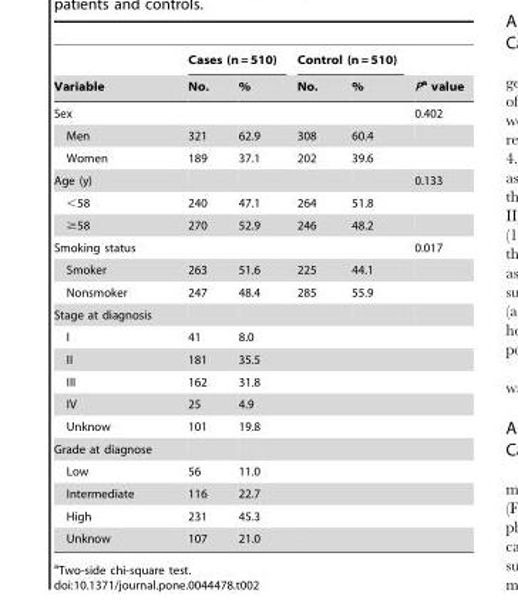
<table><thead><tr><td rowspan="2">Variable</td><td colspan="2">Cases (n = 510)</td><td colspan="2">Control (n = 510)</td><td rowspan="2">Pa value</td></tr><tr><td>No.</td><td>%</td><td>No.</td><td>%</td></tr></thead><tbody><tr><td>Sex</td><td></td><td></td><td></td><td></td><td>0.402</td></tr><tr><td>Men</td><td>321</td><td>62.9</td><td>308</td><td>60.4</td><td></td></tr><tr><td>Women</td><td>189</td><td>37.1</td><td>202</td><td>39.6</td><td></td></tr><tr><td>Age (y)</td><td></td><td></td><td></td><td></td><td>0.133</td></tr><tr><td>&lt;58</td><td>240</td><td>47.1</td><td>264</td><td>51.8</td><td></td></tr><tr><td>≥58</td><td>270</td><td>52.9</td><td>246</td><td>48.2</td><td></td></tr><tr><td>Smoking status</td><td></td><td></td><td></td><td></td><td>0.017</td></tr><tr><td>Smoker</td><td>263</td><td>51.6</td><td>225</td><td>44.1</td><td></td></tr><tr><td>Nonsmoker</td><td>247</td><td>48.4</td><td>285</td><td>55.9</td><td></td></tr><tr><td colspan="6">Stage at diagnosis</td></tr><tr><td>I</td><td>41</td><td>8.0</td><td colspan="3"></td></tr><tr><td>II</td><td>181</td><td>35.5</td><td colspan="3"></td></tr><tr><td>III</td><td>162</td><td>31.8</td><td colspan="3"></td></tr><tr><td>IV</td><td>25</td><td>4.9</td><td colspan="3"></td></tr><tr><td>Unknow</td><td>101</td><td>19.8</td><td colspan="3"></td></tr><tr><td colspan="6">Grade at diagnose</td></tr><tr><td>Low</td><td>56</td><td>11.0</td><td colspan="3"></td></tr><tr><td>Intermediate</td><td>116</td><td>22.7</td><td colspan="3"></td></tr><tr><td>High</td><td>231</td><td>45.3</td><td colspan="3"></td></tr><tr><td>Unknow</td><td>107</td><td>21.0</td><td colspan="3"></td></tr></tbody></table>